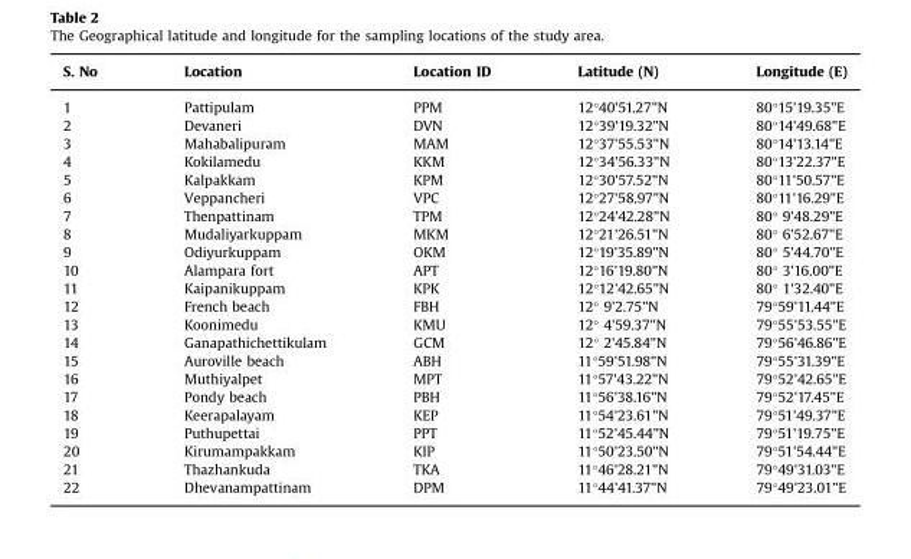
<table><thead><tr><td>S. No</td><td>Location</td><td>Location ID</td><td>Latitude (N)</td><td>Longitude (E)</td></tr></thead><tbody><tr><td>1</td><td>Pattipulam</td><td>PPM</td><td>12°40&#x27;51.27&quot;N</td><td>80°15&#x27;19.35&quot;E</td></tr><tr><td>2</td><td>Devaneri</td><td>DVN</td><td>12°39&#x27;19.32&quot;N</td><td>80°14&#x27;49.68&quot;E</td></tr><tr><td>3</td><td>Mahabalipuram</td><td>MAM</td><td>12°37&#x27;55.53&quot;N</td><td>80°14&#x27;13.14&quot;E</td></tr><tr><td>4</td><td>Kokilamedu</td><td>KKM</td><td>12°34&#x27;56.33&quot;N</td><td>80°13&#x27;22.37&quot;E</td></tr><tr><td>5</td><td>Kalpakkam</td><td>KPM</td><td>12°30&#x27;57.52&quot;N</td><td>80°11&#x27;50.57&quot;E</td></tr><tr><td>6</td><td>Veppancheri</td><td>VPC</td><td>12°27&#x27;58.97&quot;N</td><td>80°11&#x27;16.29&quot;E</td></tr><tr><td>7</td><td>Thenpattinam</td><td>TPM</td><td>12°24&#x27;42.28&quot;N</td><td>80° 9&#x27;48.29&quot;E</td></tr><tr><td>8</td><td>Mudaliyarkuppam</td><td>MKM</td><td>12°21&#x27;26.51&quot;N</td><td>80° 6&#x27;52.67&quot;E</td></tr><tr><td>9</td><td>Odiyurkuppam</td><td>OKM</td><td>12°19&#x27;35.89&quot;N</td><td>80° 5&#x27;44.70&quot;E</td></tr><tr><td>10</td><td>Alampara fort</td><td>APT</td><td>12°16&#x27;19.80&quot;N</td><td>80° 3&#x27;16.00&quot;E</td></tr><tr><td>11</td><td>Kaipanikuppam</td><td>KPK</td><td>12°12&#x27;42.65&quot;N</td><td>80° 1&#x27;32.40&quot;E</td></tr><tr><td>12</td><td>French beach</td><td>FBH</td><td>12° 9&#x27;2.75&quot;N</td><td>79°59&#x27;11.44&quot;E</td></tr><tr><td>13</td><td>Koonimedu</td><td>KMU</td><td>12° 4&#x27;59.37&quot;N</td><td>79°55&#x27;53.55&quot;E</td></tr><tr><td>14</td><td>Ganapathichettikulam</td><td>GCM</td><td>12° 2&#x27;45.84&quot;N</td><td>79°56&#x27;46.86&quot;E</td></tr><tr><td>15</td><td>Auroville beach</td><td>ABH</td><td>11°59&#x27;51.98&quot;N</td><td>79°55&#x27;31.39&quot;E</td></tr><tr><td>16</td><td>Muthiyalpet</td><td>MPT</td><td>11°57&#x27;43.22&quot;N</td><td>79°52&#x27;42.65&quot;E</td></tr><tr><td>17</td><td>Pondy beach</td><td>PBH</td><td>11°56&#x27;38.16&quot;N</td><td>79°52&#x27;17.45&quot;E</td></tr><tr><td>18</td><td>Keerapalayam</td><td>KEP</td><td>11°54&#x27;23.61&quot;N</td><td>79°51&#x27;49.37&quot;E</td></tr><tr><td>19</td><td>Puthupettai</td><td>PPT</td><td>11°52&#x27;45.44&quot;N</td><td>79°51&#x27;19.75&quot;E</td></tr><tr><td>20</td><td>Kirumampakkam</td><td>KIP</td><td>11°50&#x27;23.50&quot;N</td><td>79°51&#x27;54.44&quot;E</td></tr><tr><td>21</td><td>Thazhankuda</td><td>TKA</td><td>11°46&#x27;28.21&quot;N</td><td>79°49&#x27;31.03&quot;E</td></tr><tr><td>22</td><td>Dhevanampattinam</td><td>DPM</td><td>11°44&#x27;41.37&quot;N</td><td>79°49&#x27;23.01&quot;E</td></tr></tbody></table>